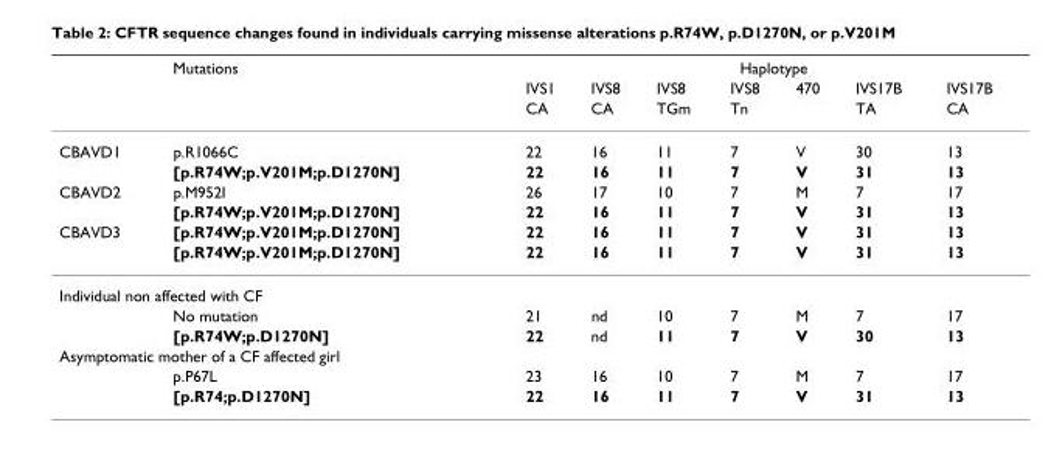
<table><thead><tr><td rowspan="3"></td><td rowspan="3">Mutations</td><td colspan="7">Haplotype</td></tr><tr><td rowspan="2">IVS1 CA</td><td rowspan="2">IVS8 CA</td><td rowspan="2">IVS8 TGm</td><td rowspan="2">IVS8 Tn</td><td rowspan="2">470</td><td rowspan="2">IVS17B TA</td><td rowspan="2">IVS17B CA</td></tr><tr></tr></thead><tbody><tr><td rowspan="2">CBAVD1</td><td>p.R1066C</td><td>22</td><td>16</td><td>11</td><td>7</td><td>V</td><td>30</td><td>13</td></tr><tr><td>[p.R74W;p.V201M;p.D1270N]</td><td>22</td><td>16</td><td>11</td><td>7</td><td>V</td><td>31</td><td>13</td></tr><tr><td rowspan="2">CBAVD2</td><td>p.M952I</td><td>26</td><td>17</td><td>10</td><td>7</td><td>M</td><td>7</td><td>17</td></tr><tr><td>[p.R74W;p.V201M;p.D1270N]</td><td>22</td><td>16</td><td>11</td><td>7</td><td>V</td><td>31</td><td>13</td></tr><tr><td rowspan="2">CBAVD3</td><td>[p.R74W;p.V201M;p.D1270N]</td><td>22</td><td>16</td><td>11</td><td>7</td><td>V</td><td>31</td><td>13</td></tr><tr><td>[p.R74W;p.V201M;p.D1270N]</td><td>22</td><td>16</td><td>11</td><td>7</td><td>V</td><td>31</td><td>13</td></tr><tr><td colspan="9">Individual non affected with CF</td></tr><tr><td></td><td>No mutation</td><td>21</td><td>nd</td><td>10</td><td>7</td><td>M</td><td>7</td><td>17</td></tr><tr><td></td><td>[p.R74W;p.D1270N]</td><td>22</td><td>nd</td><td>11</td><td>7</td><td>V</td><td>30</td><td>13</td></tr><tr><td colspan="9">Asymptomatic mother of a CF affected girl</td></tr><tr><td></td><td>p.P67L</td><td>23</td><td>16</td><td>10</td><td>7</td><td>M</td><td>7</td><td>17</td></tr><tr><td></td><td>[p.R74;p.D1270N]</td><td>22</td><td>16</td><td>11</td><td>7</td><td>V</td><td>31</td><td>13</td></tr></tbody></table>